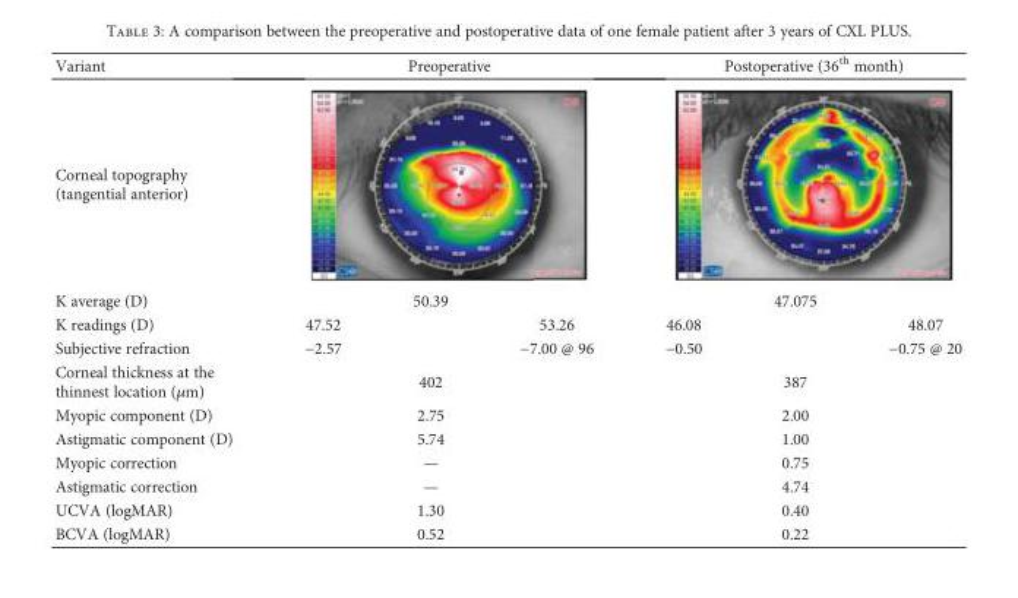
<table><thead><tr><td rowspan="3">Variant Corneal topography (tangential anterior) K average (D)</td><td rowspan="2" colspan="3">Preoperative</td><td rowspan="2" colspan="3">Postoperative (36<sup>th</sup> month)</td></tr><tr></tr><tr><td></td><td>50.39</td><td></td><td></td><td>47.075</td><td></td></tr></thead><tbody><tr><td>K readings (D)</td><td>47.52</td><td></td><td>53.26</td><td>46.08</td><td></td><td>48.07</td></tr><tr><td>Subjective refraction</td><td>−2.57</td><td></td><td>−7.00 @ 96</td><td>−0.50</td><td></td><td>−0.75 @ 20</td></tr><tr><td>Corneal thickness at the thinnest location (μm)</td><td></td><td>402</td><td></td><td></td><td>387</td><td></td></tr><tr><td>Myopic component (D)</td><td></td><td>2.75</td><td></td><td></td><td>2.00</td><td></td></tr><tr><td>Astigmatic component (D)</td><td></td><td>5.74</td><td></td><td></td><td>1.00</td><td></td></tr><tr><td>Myopic correction</td><td></td><td>—</td><td></td><td></td><td>0.75</td><td></td></tr><tr><td>Astigmatic correction</td><td></td><td>—</td><td></td><td></td><td>4.74</td><td></td></tr><tr><td>UCVA (logMAR)</td><td></td><td>1.30</td><td></td><td></td><td>0.40</td><td></td></tr><tr><td>BCVA (logMAR)</td><td></td><td>0.52</td><td></td><td></td><td>0.22</td><td></td></tr></tbody></table>